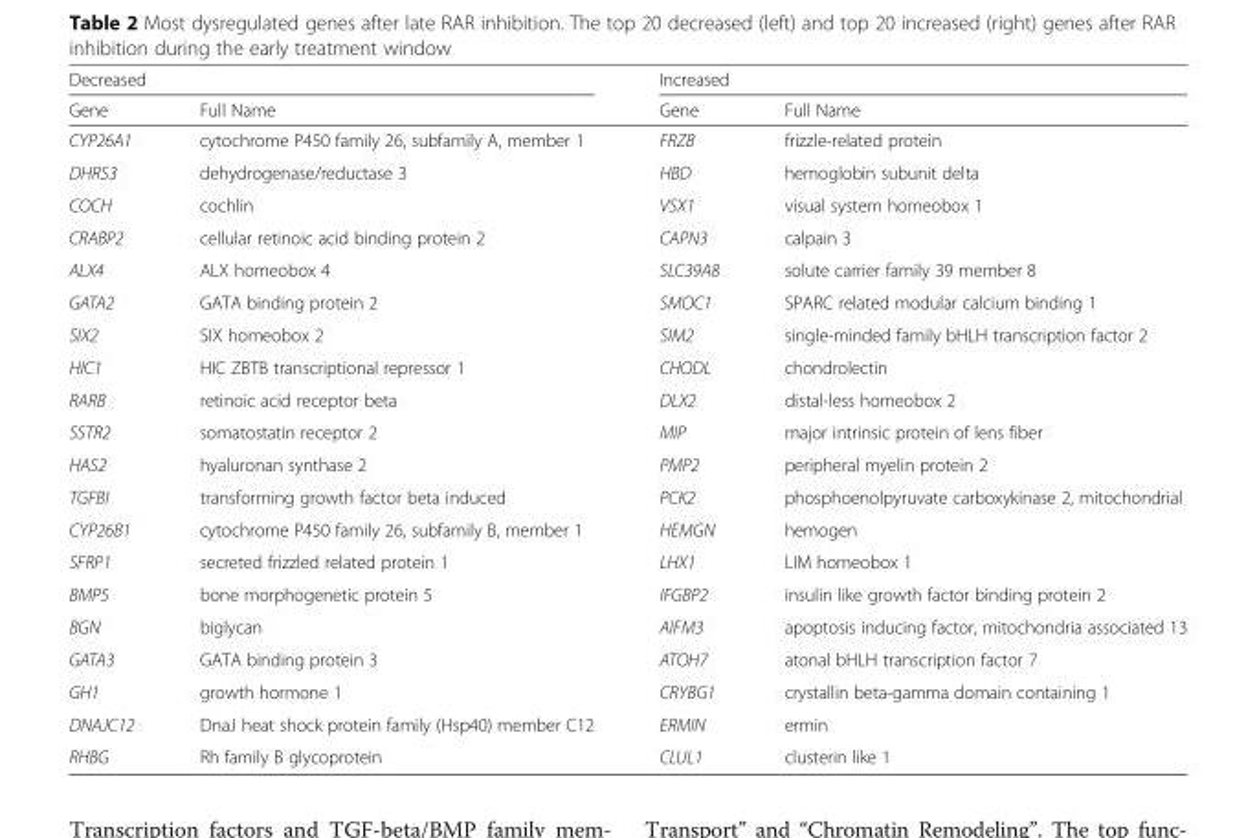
<table><thead><tr><td colspan="2">Decreased</td><td colspan="2">Increased</td></tr><tr><td>Gene</td><td>Full Name</td><td>Gene</td><td>Full Name</td></tr></thead><tbody><tr><td>CYP26A1</td><td>cytochrome P450 family 26, subfamily A, member 1</td><td>FRZB</td><td>frizzle-related protein</td></tr><tr><td>DHRS3</td><td>dehydrogenase/reductase 3</td><td>HBD</td><td>hemoglobin subunit delta</td></tr><tr><td>COCH</td><td>cochlin</td><td>VSX1</td><td>visual system homeobox 1</td></tr><tr><td>CRABP2</td><td>cellular retinoic acid binding protein 2</td><td>CAPN3</td><td>calpain 3</td></tr><tr><td>ALX4</td><td>ALX homeobox 4</td><td>SLC39A8</td><td>solute carrier family 39 member 8</td></tr><tr><td>GATA2</td><td>GATA binding protein 2</td><td>SMOC1</td><td>SPARC related modular calcium binding 1</td></tr><tr><td>SIX2</td><td>SIX homeobox 2</td><td>SIM2</td><td>single-minded family bHLH transcription factor 2</td></tr><tr><td>HIC1</td><td>HIC ZBTB transcriptional repressor 1</td><td>CHODL</td><td>chondrolectin</td></tr><tr><td>RARB</td><td>retinoic acid receptor beta</td><td>DLX2</td><td>distal-less homeobox 2</td></tr><tr><td>SSTR2</td><td>somatostatin receptor 2</td><td>MIP</td><td>major intrinsic protein of lens fiber</td></tr><tr><td>HAS2</td><td>hyaluronan synthase 2</td><td>PMP2</td><td>peripheral myelin protein 2</td></tr><tr><td>TGFBI</td><td>transforming growth factor beta induced</td><td>PCK2</td><td>phosphoenolpyruvate carboxykinase 2, mitochondrial</td></tr><tr><td>CYP26B1</td><td>cytochrome P450 family 26, subfamily B, member 1</td><td>HEMGN</td><td>hemogen</td></tr><tr><td>SFRP1</td><td>secreted frizzled related protein 1</td><td>LHX1</td><td>LIM homeobox 1</td></tr><tr><td>BMP5</td><td>bone morphogenetic protein 5</td><td>IFGBP2</td><td>insulin like growth factor binding protein 2</td></tr><tr><td>BGN</td><td>biglycan</td><td>AIFM3</td><td>apoptosis inducing factor, mitochondria associated 13</td></tr><tr><td>GATA3</td><td>GATA binding protein 3</td><td>ATOH7</td><td>atonal bHLH transcription factor 7</td></tr><tr><td>GH1</td><td>growth hormone 1</td><td>CRYBG1</td><td>crystallin beta-gamma domain containing 1</td></tr><tr><td>DNAJC12</td><td>DnaJ heat shock protein family (Hsp40) member C12</td><td>ERMIN</td><td>ermin</td></tr><tr><td>RHBG</td><td>Rh family B glycoprotein</td><td>CLUL1</td><td>clusterin like 1</td></tr></tbody></table>